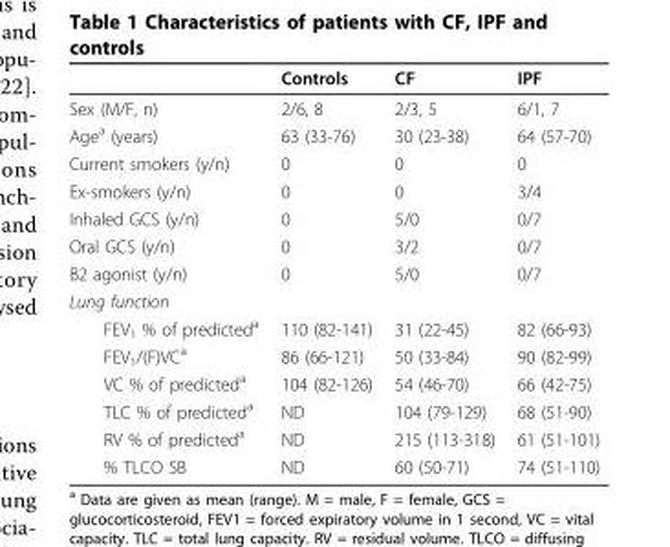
<table><thead><tr><td></td><td>Controls</td><td>CF</td><td>IPF</td></tr></thead><tbody><tr><td>Sex (M/F, n)</td><td>2/6, 8</td><td>2/3, 5</td><td>6/1, 7</td></tr><tr><td>Age<sup>a</sup> (years)</td><td>63 (33-76)</td><td>30 (23-38)</td><td>64 (57-70)</td></tr><tr><td>Current smokers (y/n)</td><td>0</td><td>0</td><td>0</td></tr><tr><td>Ex-smokers (y/n)</td><td>0</td><td>0</td><td>3/4</td></tr><tr><td>Inhaled GCS (y/n)</td><td>0</td><td>5/0</td><td>0/7</td></tr><tr><td>Oral GCS (y/n)</td><td>0</td><td>3/2</td><td>0/7</td></tr><tr><td>B2 agonist (y/n)</td><td>0</td><td>5/0</td><td>0/7</td></tr><tr><td colspan="4">Lung function</td></tr><tr><td>FEV<sub>1</sub> % of predicted<sup>a</sup></td><td>110 (82-141)</td><td>31 (22-45)</td><td>82 (66-93)</td></tr><tr><td>FEV<sub>1</sub>/(F)VC<sup>a</sup></td><td>86 (66-121)</td><td>50 (33-84)</td><td>90 (82-99)</td></tr><tr><td>VC % of predicted<sup>a</sup></td><td>104 (82-126)</td><td>54 (46-70)</td><td>66 (42-75)</td></tr><tr><td>TLC % of predicted<sup>a</sup></td><td>ND</td><td>104 (79-129)</td><td>68 (51-90)</td></tr><tr><td>RV % of predicted<sup>a</sup></td><td>ND</td><td>215 (113-318)</td><td>61 (51-101)</td></tr><tr><td>% TLCO SB</td><td>ND</td><td>60 (50-71)</td><td>74 (51-110)</td></tr></tbody></table>